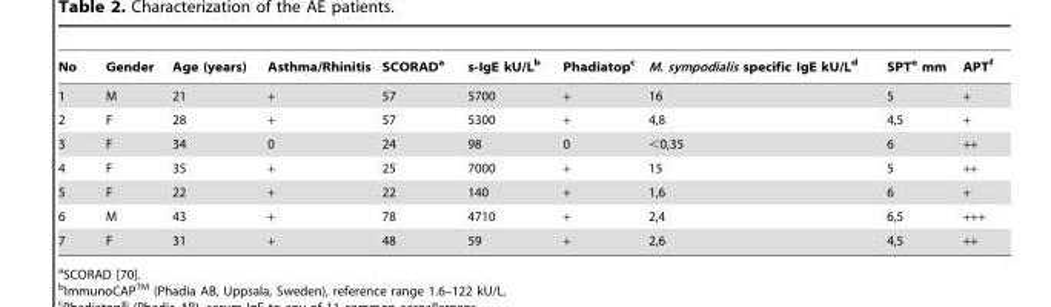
<table><thead><tr><td>No</td><td>Gender</td><td>Age (years)</td><td>Asthma/Rhinitis</td><td>SCORAD<sup>a</sup></td><td>s-IgE kU/L<sup>b</sup></td><td>Phadiatop<sup>c</sup></td><td>M. sympodialis specific IgE kU/L<sup>d</sup></td><td>SPT<sup>e</sup> mm</td><td>APT<sup>f</sup></td></tr></thead><tbody><tr><td>1</td><td>M</td><td>21</td><td>+</td><td>57</td><td>5700</td><td>+</td><td>16</td><td>5</td><td>+</td></tr><tr><td>2</td><td>F</td><td>28</td><td>+</td><td>57</td><td>5300</td><td>+</td><td>4,8</td><td>4,5</td><td>+</td></tr><tr><td>3</td><td>F</td><td>34</td><td>0</td><td>24</td><td>98</td><td>0</td><td>&lt;0,35</td><td>6</td><td>++</td></tr><tr><td>4</td><td>F</td><td>35</td><td>+</td><td>25</td><td>7000</td><td>+</td><td>15</td><td>5</td><td>++</td></tr><tr><td>5</td><td>F</td><td>22</td><td>+</td><td>22</td><td>140</td><td>+</td><td>1,6</td><td>6</td><td>+</td></tr><tr><td>6</td><td>M</td><td>43</td><td>+</td><td>78</td><td>4710</td><td>+</td><td>2,4</td><td>6,5</td><td>+++</td></tr><tr><td>7</td><td>F</td><td>31</td><td>+</td><td>48</td><td>59</td><td>+</td><td>2,6</td><td>4,5</td><td>++</td></tr></tbody></table>